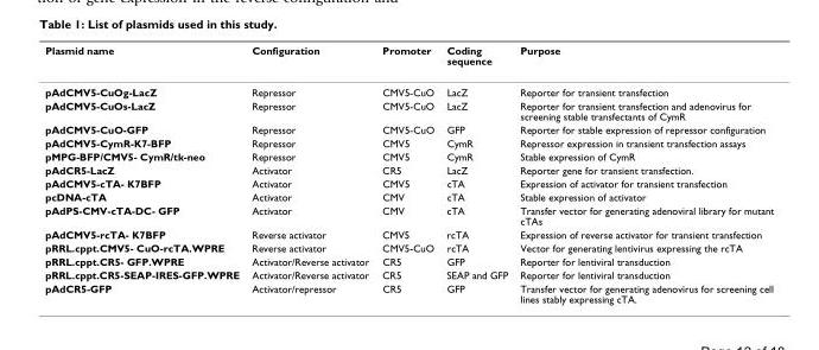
<table><thead><tr><td>Plasmid name</td><td>Configuration</td><td>Promoter</td><td>Coding sequence</td><td>Purpose</td></tr></thead><tbody><tr><td>pAdCMV5-CuOg-LacZ</td><td>Repressor</td><td>CMV5-CuO</td><td>LacZ</td><td>Reporter for transient transfection</td></tr><tr><td>pAdCMV5-CuOs-LacZ</td><td>Repressor</td><td>CMV5-CuO</td><td>LacZ</td><td>Reporter for transient transfection and adenovirus for screening stable transfectants of CymR</td></tr><tr><td>pAdCMV5-CuO-GFP</td><td>Repressor</td><td>CMV5-CuO</td><td>GFP</td><td>Reporter for stable expression of repressor configuration</td></tr><tr><td>pAdCMV5-CymR-K7-BFP</td><td>Repressor</td><td>CMV5</td><td>CymR</td><td>Repressor expression in transient transfection assays</td></tr><tr><td>pMPG-BFP/CMV5- CymR/tk-neo</td><td>Repressor</td><td>CMV5</td><td>CymR</td><td>Stable expression of CymR</td></tr><tr><td>pAdCR5-LacZ</td><td>Activator</td><td>CR5</td><td>LacZ</td><td>Reporter gene for transient transfection.</td></tr><tr><td>pAdCMV5-cTA- K7BFP</td><td>Activator</td><td>CMV5</td><td>cTA</td><td>Expression of activator for transient transfection</td></tr><tr><td>pcDNA-cTA</td><td>Activator</td><td>CMV</td><td>cTA</td><td>Stable expression of activator</td></tr><tr><td>pAdPS-CMV-cTA-DC- GFP</td><td>Activator</td><td>CMV</td><td>cTA</td><td>Transfer vector for generating adenoviral library for mutant cTAs</td></tr><tr><td>pAdCMV5-rcTA- K7BFP</td><td>Reverse activator</td><td>CMV5</td><td>rcTA</td><td>Expression of reverse activator for transient transfection</td></tr><tr><td>pRRL.cppt.CMV5- CuO-rcTA.WPRE</td><td>Reverse activator</td><td>CMV5-CuO</td><td>rcTA</td><td>Vector for generating lentivirus expressing the rcTA</td></tr><tr><td>pRRL.cppt.CR5- GFP.WPRE</td><td>Activator/Reverse activator</td><td>CR5</td><td>GFP</td><td>Reporter for lentiviral transduction</td></tr><tr><td>pRRL.cppt.CR5-SEAP-IRES-GFP.WPRE</td><td>Activator/Reverse activator</td><td>CR5</td><td>SEAP and GFP</td><td>Reporter for lentiviral transduction</td></tr><tr><td>pAdCR5-GFP</td><td>Activator/repressor</td><td>CR5</td><td>GFP</td><td>Transfer vector for generating adenovirus for screening cell lines stably expressing cTA.</td></tr></tbody></table>